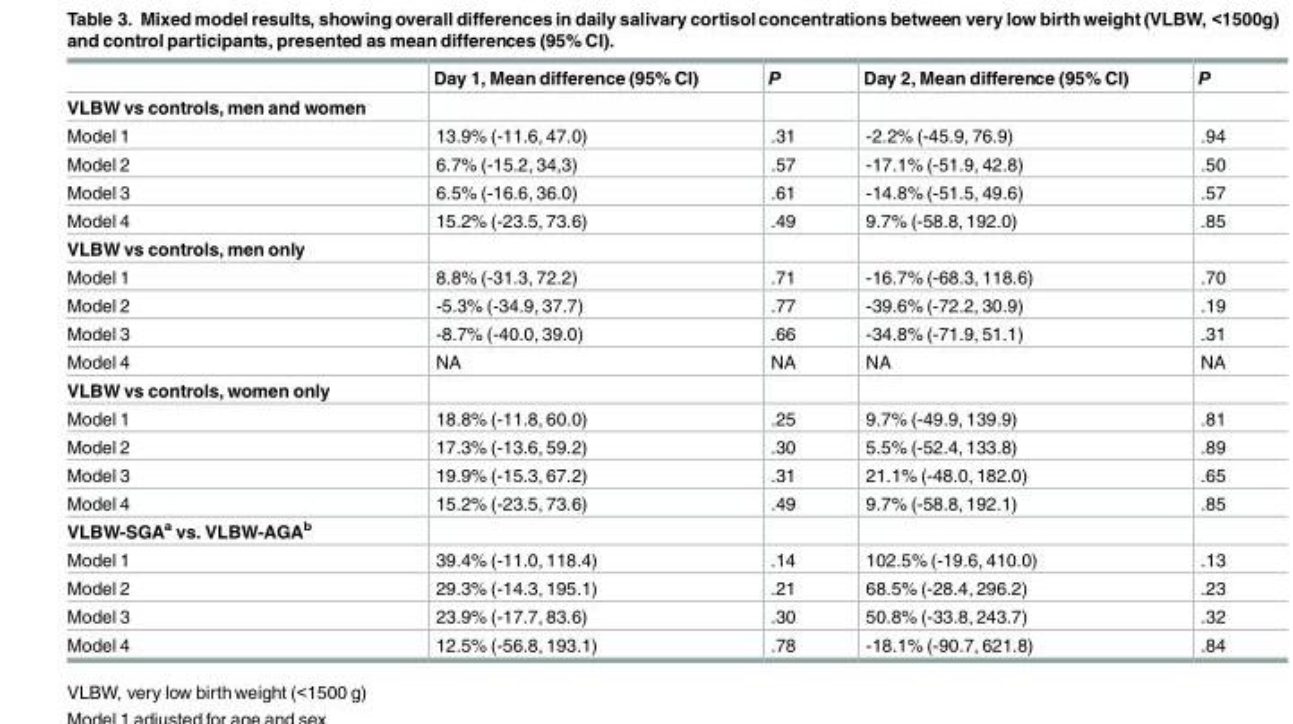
<table><thead><tr><td></td><td>Day 1, Mean difference (95% CI)</td><td>P</td><td>Day 2, Mean difference (95% CI)</td><td>P</td></tr></thead><tbody><tr><td colspan="5">VLBW vs controls, men and women</td></tr><tr><td>Model 1</td><td>13.9% (-11.6, 47.0)</td><td>.31</td><td>-2.2% (-45.9, 76.9)</td><td>.94</td></tr><tr><td>Model 2</td><td>6.7% (-15.2, 34,3)</td><td>.57</td><td>-17.1% (-51.9, 42.8)</td><td>.50</td></tr><tr><td>Model 3</td><td>6.5% (-16.6, 36.0)</td><td>.61</td><td>-14.8% (-51.5, 49.6)</td><td>.57</td></tr><tr><td>Model 4</td><td>15.2% (-23.5, 73.6)</td><td>.49</td><td>9.7% (-58.8, 192.0)</td><td>.85</td></tr><tr><td colspan="5">VLBW vs controls, men only</td></tr><tr><td>Model 1</td><td>8.8% (-31.3, 72.2)</td><td>.71</td><td>-16.7% (-68.3, 118.6)</td><td>.70</td></tr><tr><td>Model 2</td><td>-5.3% (-34.9, 37.7)</td><td>.77</td><td>-39.6% (-72.2, 30.9)</td><td>.19</td></tr><tr><td>Model 3</td><td>-8.7% (-40.0, 39.0)</td><td>.66</td><td>-34.8% (-71.9, 51.1)</td><td>.31</td></tr><tr><td>Model 4</td><td>NA</td><td>NA</td><td>NA</td><td>NA</td></tr><tr><td colspan="5">VLBW vs controls, women only</td></tr><tr><td>Model 1</td><td>18.8% (-11.8, 60.0)</td><td>.25</td><td>9.7% (-49.9, 139.9)</td><td>.81</td></tr><tr><td>Model 2</td><td>17.3% (-13.6, 59.2)</td><td>.30</td><td>5.5% (-52.4, 133.8)</td><td>.89</td></tr><tr><td>Model 3</td><td>19.9% (-15.3, 67.2)</td><td>.31</td><td>21.1% (-48.0, 182.0)</td><td>.65</td></tr><tr><td>Model 4</td><td>15.2% (-23.5, 73.6)</td><td>.49</td><td>9.7% (-58.8, 192.1)</td><td>.85</td></tr><tr><td colspan="5">VLBW-SGA<sup>a</sup> vs. VLBW-AGA<sup>b</sup></td></tr><tr><td>Model 1</td><td>39.4% (-11.0, 118.4)</td><td>.14</td><td>102.5% (-19.6, 410.0)</td><td>.13</td></tr><tr><td>Model 2</td><td>29.3% (-14.3, 195.1)</td><td>.21</td><td>68.5% (-28.4, 296.2)</td><td>.23</td></tr><tr><td>Model 3</td><td>23.9% (-17.7, 83.6)</td><td>.30</td><td>50.8% (-33.8, 243.7)</td><td>.32</td></tr><tr><td>Model 4</td><td>12.5% (-56.8, 193.1)</td><td>.78</td><td>-18.1% (-90.7, 621.8)</td><td>.84</td></tr></tbody></table>